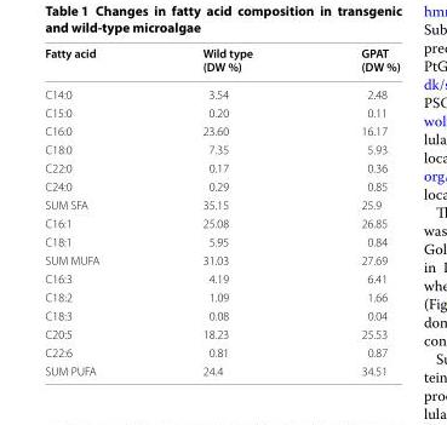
<table><thead><tr><td>Fatty acid</td><td>Wild type (DW %)</td><td>GPAT (DW %)</td></tr></thead><tbody><tr><td>C14:0</td><td>3.54</td><td>2.48</td></tr><tr><td>C15:0</td><td>0.20</td><td>0.11</td></tr><tr><td>C16:0</td><td>23.60</td><td>16.17</td></tr><tr><td>C18:0</td><td>7.35</td><td>5.93</td></tr><tr><td>C22:0</td><td>0.17</td><td>0.36</td></tr><tr><td>C24:0</td><td>0.29</td><td>0.85</td></tr><tr><td>SUM SFA</td><td>35.15</td><td>25.9</td></tr><tr><td>C16:1</td><td>25.08</td><td>26.85</td></tr><tr><td>C18:1</td><td>5.95</td><td>0.84</td></tr><tr><td>SUM MUFA</td><td>31.03</td><td>27.69</td></tr><tr><td>C16:3</td><td>4.19</td><td>6.41</td></tr><tr><td>C18:2</td><td>1.09</td><td>1.66</td></tr><tr><td>C18:3</td><td>0.08</td><td>0.04</td></tr><tr><td>C20:5</td><td>18.23</td><td>25.53</td></tr><tr><td>C22:6</td><td>0.81</td><td>0.87</td></tr><tr><td>SUM PUFA</td><td>24.4</td><td>34.51</td></tr></tbody></table>